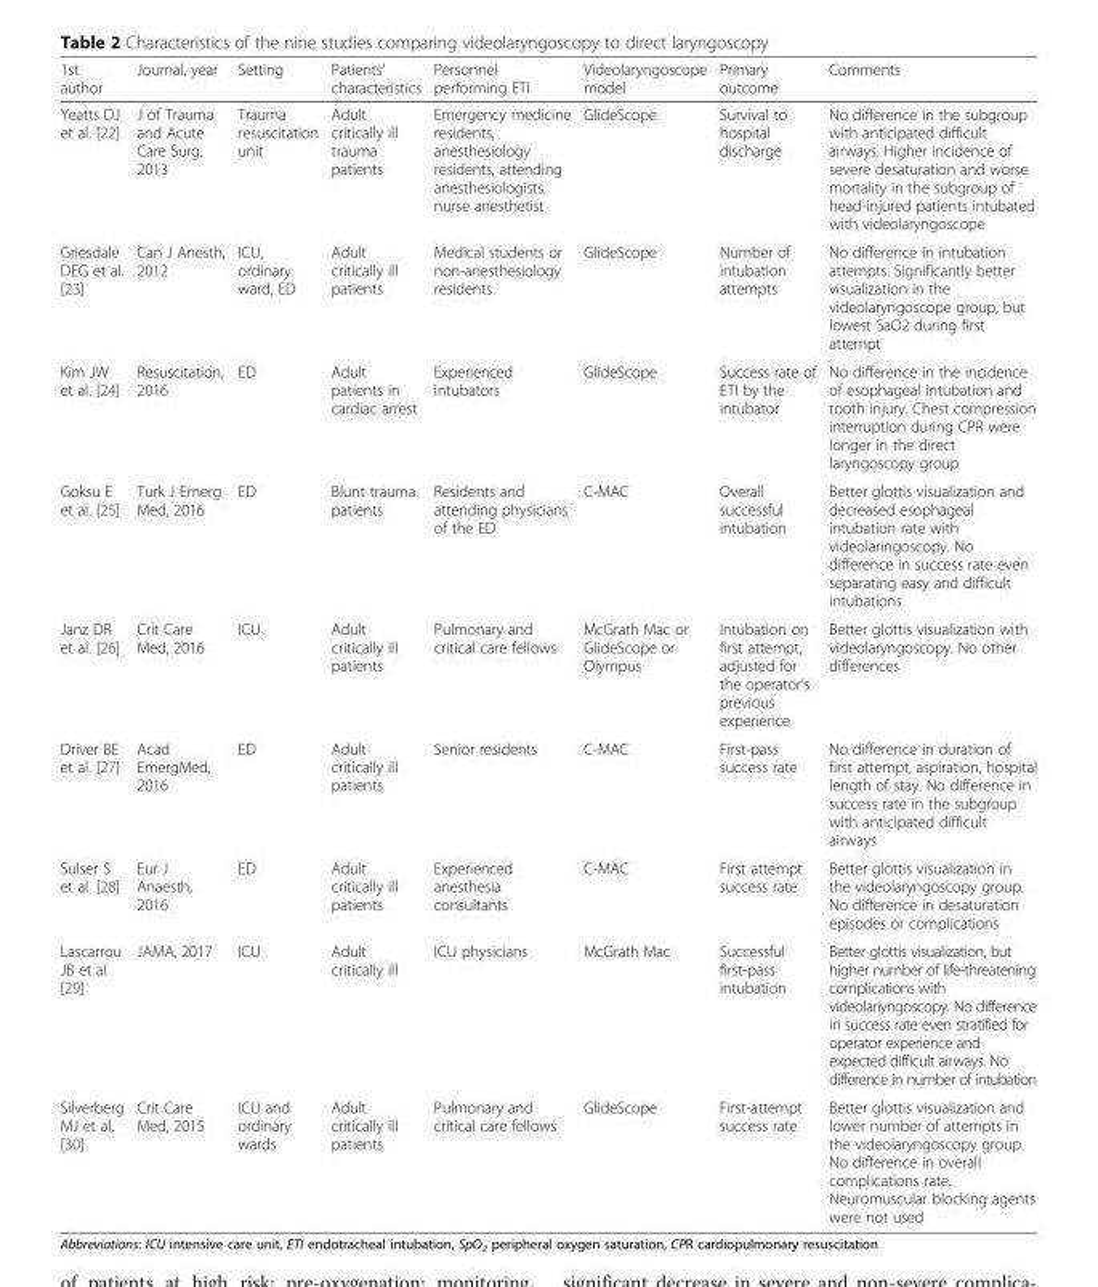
<table><thead><tr><td>1st author</td><td>Journal, year</td><td>Setting</td><td>Patients’ characteristics</td><td>Personnel performing ETI</td><td>Videolaryngoscope model</td><td>Primary outcome</td><td>Comments</td></tr></thead><tbody><tr><td>Yeatts DJ et al. [22]</td><td>J of Trauma and Acute Care Surg, 2013</td><td>Trauma resuscitation unit</td><td>Adult critically ill trauma patients</td><td>Emergency medicine residents, anesthesiology residents, attending anesthesiologists, nurse anesthetist</td><td>GlideScope</td><td>Survival to hospital discharge</td><td>No difference in the subgroup with anticipated difficult airways. Higher incidence of severe desaturation and worse mortality in the subgroup of head-injured patients intubated with videolaryngoscope</td></tr><tr><td>Griesdale DEG et al. [23]</td><td>Can J Anesth, 2012</td><td>ICU, ordinary ward, ED</td><td>Adult critically ill patients</td><td>Medical students or non-anesthesiology residents</td><td>GlideScope</td><td>Number of intubation attempts</td><td>No difference in intubation attempts. Significantly better visualization in the videolaryngoscope group, but lowest SaO2 during first attempt</td></tr><tr><td>Kim JW et al. [24]</td><td>Resuscitation, 2016</td><td>ED</td><td>Adult patients in cardiac arrest</td><td>Experienced intubators</td><td>GlideScope</td><td>Success rate of ETI by the intubator</td><td>No difference in the incidence of esophageal intubation and tooth injury. Chest compression interruption during CPR were longer in the direct laryngoscopy group</td></tr><tr><td>Goksu E et al. [25]</td><td>Turk J Emerg Med, 2016</td><td>ED</td><td>Blunt trauma patients</td><td>Residents and attending physicians of the ED</td><td>C-MAC</td><td>Overall successful intubation</td><td>Better glottis visualization and decreased esophageal intubation rate with videolaringoscopy. No difference in success rate even separating easy and difficult intubations</td></tr><tr><td>Janz DR et al. [26]</td><td>Crit Care Med, 2016</td><td>ICU</td><td>Adult critically ill patients</td><td>Pulmonary and critical care fellows</td><td>McGrath Mac or GlideScope or Olympus</td><td>Intubation on first attempt, adjusted for the operator’s previous experience</td><td>Better glottis visualization with videolaryngoscopy. No other differences</td></tr><tr><td>Driver BE et al. [27]</td><td>Acad EmergMed, 2016</td><td>ED</td><td>Adult critically ill patients</td><td>Senior residents</td><td>C-MAC</td><td>First-pass success rate</td><td>No difference in duration of first attempt, aspiration, hospital length of stay. No difference in success rate in the subgroup with anticipated difficult airways</td></tr><tr><td>Sulser S et al. [28]</td><td>Eur J Anaesth, 2016</td><td>ED</td><td>Adult critically ill patients</td><td>Experienced anesthesia consultants</td><td>C-MAC</td><td>First attempt success rate</td><td>Better glottis visualization in the videolaryngoscopy group. No difference in desaturation episodes or complications</td></tr><tr><td>Lascarrou JB et al [29]</td><td>JAMA, 2017</td><td>ICU</td><td>Adult critically ill</td><td>ICU physicians</td><td>McGrath Mac</td><td>Successful first-pass intubation</td><td>Better glottis visualization, but higher number of life-threatening complications with videolariyngoscopy. No difference in success rate even stratified for operator experience and expected difficult airways. No difference in number of intubation</td></tr><tr><td>Silverberg MJ et al. [30]</td><td>Crit Care Med, 2015</td><td>ICU and ordinary wards</td><td>Adult critically ill patients</td><td>Pulmonary and critical care fellows</td><td>GlideScope</td><td>First-attempt success rate</td><td>Better glottis visualization and lower number of attempts in the videolaryngoscopy group. No difference in overall complications rate. Neuromuscular blocking agents were not used</td></tr></tbody></table>